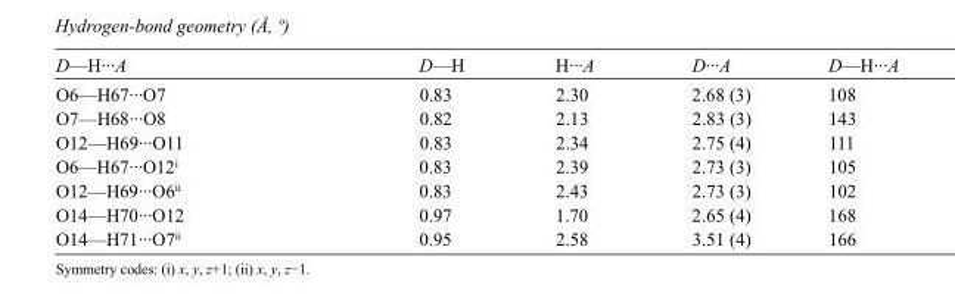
<table><tbody><tr><td>D—H···A</td><td>D—H</td><td>H···A</td><td>D···A</td><td>D—H···A</td></tr><tr><td>O6—H67···O7</td><td>0.83</td><td>2.30</td><td>2.68 (3)</td><td>108</td></tr><tr><td>O7—H68···O8</td><td>0.82</td><td>2.13</td><td>2.83 (3)</td><td>143</td></tr><tr><td>O12—H69···O11</td><td>0.83</td><td>2.34</td><td>2.75 (4)</td><td>111</td></tr><tr><td>O6—H67···O12<sup>i</sup></td><td>0.83</td><td>2.39</td><td>2.73 (3)</td><td>105</td></tr><tr><td>O12—H69···O6<sup>ii</sup></td><td>0.83</td><td>2.43</td><td>2.73 (3)</td><td>102</td></tr><tr><td>O14—H70···O12</td><td>0.97</td><td>1.70</td><td>2.65 (4)</td><td>168</td></tr><tr><td>O14—H71···O7<sup>ii</sup></td><td>0.95</td><td>2.58</td><td>3.51 (4)</td><td>166</td></tr></tbody></table>